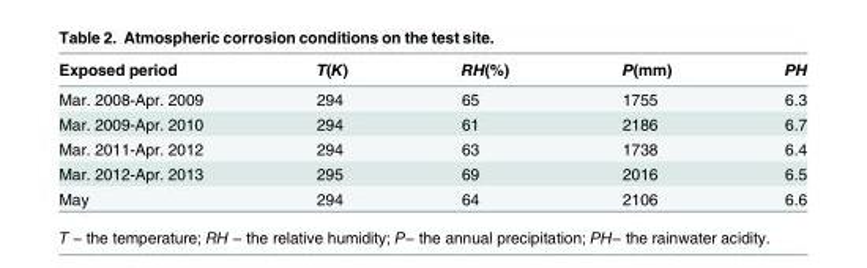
<table><thead><tr><td>Exposed period</td><td>T(K)</td><td>RH(%)</td><td>P(mm)</td><td>PH</td></tr></thead><tbody><tr><td>Mar. 2008-Apr. 2009</td><td>294</td><td>65</td><td>1755</td><td>6.3</td></tr><tr><td>Mar. 2009-Apr. 2010</td><td>294</td><td>61</td><td>2186</td><td>6.7</td></tr><tr><td>Mar. 2011-Apr. 2012</td><td>294</td><td>63</td><td>1738</td><td>6.4</td></tr><tr><td>Mar. 2012-Apr. 2013</td><td>295</td><td>69</td><td>2016</td><td>6.5</td></tr><tr><td>May</td><td>294</td><td>64</td><td>2106</td><td>6.6</td></tr></tbody></table>